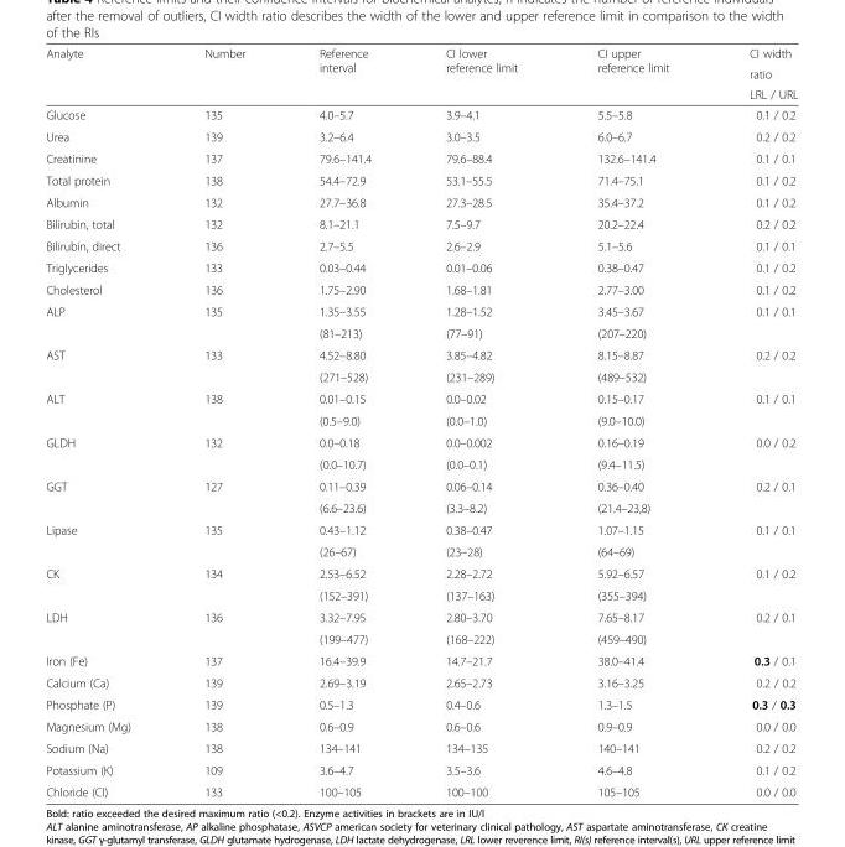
<table><thead><tr><td rowspan="3">Analyte</td><td rowspan="3">Number</td><td rowspan="3">Reference interval</td><td rowspan="3">CI lower reference limit</td><td rowspan="3">CI upper reference limit</td><td rowspan="3">CI width ratio LRL / URL</td></tr><tr></tr><tr></tr></thead><tbody><tr><td>Glucose</td><td>135</td><td>4.0–5.7</td><td>3.9–4.1</td><td>5.5–5.8</td><td>0.1 / 0.2</td></tr><tr><td>Urea</td><td>139</td><td>3.2–6.4</td><td>3.0–3.5</td><td>6.0–6.7</td><td>0.2 / 0.2</td></tr><tr><td>Creatinine</td><td>137</td><td>79.6–141.4</td><td>79.6–88.4</td><td>132.6–141.4</td><td>0.1 / 0.1</td></tr><tr><td>Total protein</td><td>138</td><td>54.4–72.9</td><td>53.1–55.5</td><td>71.4–75.1</td><td>0.1 / 0.2</td></tr><tr><td>Albumin</td><td>132</td><td>27.7–36.8</td><td>27.3–28.5</td><td>35.4–37.2</td><td>0.1 / 0.2</td></tr><tr><td>Bilirubin, total</td><td>132</td><td>8.1–21.1</td><td>7.5–9.7</td><td>20.2–22.4</td><td>0.2 / 0.2</td></tr><tr><td>Bilirubin, direct</td><td>136</td><td>2.7–5.5</td><td>2.6–2.9</td><td>5.1–5.6</td><td>0.1 / 0.1</td></tr><tr><td>Triglycerides</td><td>133</td><td>0.03–0.44</td><td>0.01–0.06</td><td>0.38–0.47</td><td>0.1 / 0.2</td></tr><tr><td>Cholesterol</td><td>136</td><td>1.75–2.90</td><td>1.68–1.81</td><td>2.77–3.00</td><td>0.1 / 0.2</td></tr><tr><td rowspan="2">ALP</td><td rowspan="2">135</td><td>1.35–3.55</td><td>1.28–1.52</td><td>3.45–3.67</td><td rowspan="2">0.1 / 0.1</td></tr><tr><td>(81–213)</td><td>(77–91)</td><td>(207–220)</td></tr><tr><td rowspan="2">AST</td><td rowspan="2">133</td><td>4.52–8.80</td><td>3.85–4.82</td><td>8.15–8.87</td><td rowspan="2">0.2 / 0.2</td></tr><tr><td>(271–528)</td><td>(231–289)</td><td>(489–532)</td></tr><tr><td rowspan="2">ALT</td><td rowspan="2">138</td><td>0.01–0.15</td><td>0.0–0.02</td><td>0.15–0.17</td><td rowspan="2">0.1 / 0.1</td></tr><tr><td>(0.5–9.0)</td><td>(0.0–1.0)</td><td>(9.0–10.0)</td></tr><tr><td rowspan="2">GLDH</td><td rowspan="2">132</td><td>0.0–0.18</td><td>0.0–0.002</td><td>0.16–0.19</td><td rowspan="2">0.0 / 0.2</td></tr><tr><td>(0.0–10.7)</td><td>(0.0–0.1)</td><td>(9.4–11.5)</td></tr><tr><td rowspan="2">GGT</td><td rowspan="2">127</td><td>0.11–0.39</td><td>0.06–0.14</td><td>0.36–0.40</td><td rowspan="2">0.2 / 0.1</td></tr><tr><td>(6.6–23.6)</td><td>(3.3–8.2)</td><td>(21.4–23,8)</td></tr><tr><td rowspan="2">Lipase</td><td rowspan="2">135</td><td>0.43–1.12</td><td>0.38–0.47</td><td>1.07–1.15</td><td rowspan="2">0.1 / 0.1</td></tr><tr><td>(26–67)</td><td>(23–28)</td><td>(64–69)</td></tr><tr><td rowspan="2">CK</td><td rowspan="2">134</td><td>2.53–6.52</td><td>2.28–2.72</td><td>5.92–6.57</td><td rowspan="2">0.1 / 0.2</td></tr><tr><td>(152–391)</td><td>(137–163)</td><td>(355–394)</td></tr><tr><td rowspan="2">LDH</td><td rowspan="2">136</td><td>3.32–7.95</td><td>2.80–3.70</td><td>7.65–8.17</td><td rowspan="2">0.2 / 0.1</td></tr><tr><td>(199–477)</td><td>(168–222)</td><td>(459–490)</td></tr><tr><td>Iron (Fe)</td><td>137</td><td>16.4–39.9</td><td>14.7–21.7</td><td>38.0–41.4</td><td>0.3 / 0.1</td></tr><tr><td>Calcium (Ca)</td><td>139</td><td>2.69–3.19</td><td>2.65–2.73</td><td>3.16–3.25</td><td>0.2 / 0.2</td></tr><tr><td>Phosphate (P)</td><td>139</td><td>0.5–1.3</td><td>0.4–0.6</td><td>1.3–1.5</td><td>0.3 / 0.3</td></tr><tr><td>Magnesium (Mg)</td><td>138</td><td>0.6–0.9</td><td>0.6–0.6</td><td>0.9–0.9</td><td>0.0 / 0.0</td></tr><tr><td>Sodium (Na)</td><td>138</td><td>134–141</td><td>134–135</td><td>140–141</td><td>0.2 / 0.2</td></tr><tr><td>Potassium (K)</td><td>109</td><td>3.6–4.7</td><td>3.5–3.6</td><td>4.6–4.8</td><td>0.1 / 0.2</td></tr><tr><td>Chloride (Cl)</td><td>133</td><td>100–105</td><td>100–100</td><td>105–105</td><td>0.0 / 0.0</td></tr></tbody></table>